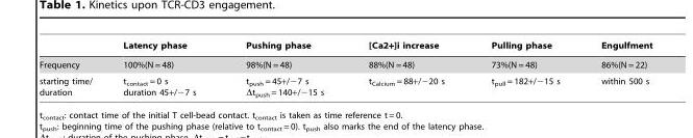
<table><thead><tr><td></td><td>Latency phase</td><td>Pushing phase</td><td>[Ca2+]i increase</td><td>Pulling phase</td><td>Engulfment</td></tr></thead><tbody><tr><td>Frequency</td><td>100%(N = 48)</td><td>98%(N = 48)</td><td>88%(N = 48)</td><td>73%(N = 48)</td><td>86%(N = 22)</td></tr><tr><td>starting time/ duration</td><td>t<sub>contact</sub> = 0 s duration 45+/−7 s</td><td>t<sub>push</sub> = 45+/−7 s Δt<sub>push</sub> = 140+/−15 s</td><td>t<sub>Calcium</sub> = 88+/−20 s</td><td>t<sub>pull</sub> = 182+/−15 s</td><td>within 500 s</td></tr></tbody></table>